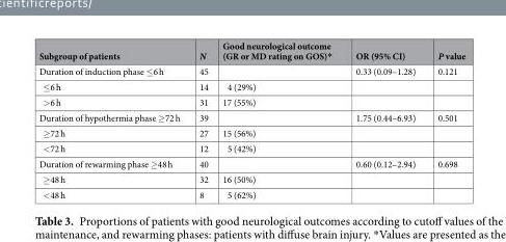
<table><thead><tr><td>Subgroup of patients</td><td>N</td><td>Good neurological outcome (GR or MD rating on GOS)*</td><td>OR (95% CI)</td><td>P value</td></tr></thead><tbody><tr><td>Duration of induction phase ≤6 h</td><td>45</td><td></td><td>0.33 (0.09–1.28)</td><td>0.121</td></tr><tr><td>≤6 h</td><td>14</td><td>4 (29%)</td><td></td><td></td></tr><tr><td>&gt;6 h</td><td>31</td><td>17 (55%)</td><td></td><td></td></tr><tr><td>Duration of hypothermia phase ≥72 h</td><td>39</td><td></td><td>1.75 (0.44–6.93)</td><td>0.501</td></tr><tr><td>≥72 h</td><td>27</td><td>15 (56%)</td><td></td><td></td></tr><tr><td>&lt;72 h</td><td>12</td><td>5 (42%)</td><td></td><td></td></tr><tr><td>Duration of rewarming phase ≥48 h</td><td>40</td><td></td><td>0.60 (0.12–2.94)</td><td>0.698</td></tr><tr><td>≥48 h</td><td>32</td><td>16 (50%)</td><td></td><td></td></tr><tr><td>&lt;48 h</td><td>8</td><td>5 (62%)</td><td></td><td></td></tr></tbody></table>